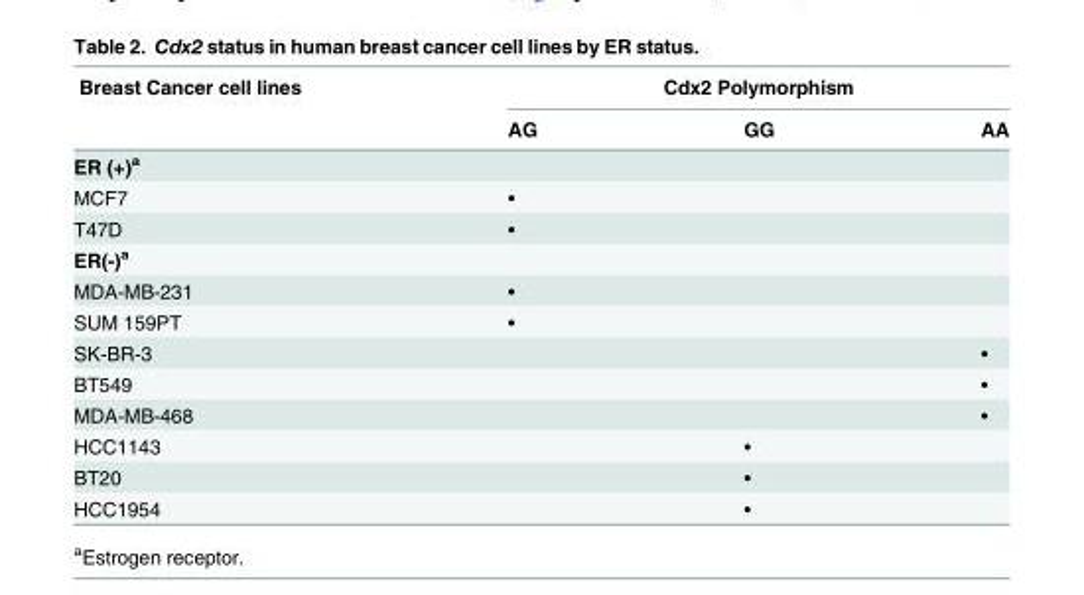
<table><thead><tr><td rowspan="2">Breast Cancer cell lines</td><td colspan="3">Cdx2 Polymorphism</td></tr><tr><td>AG</td><td>GG</td><td>AA</td></tr></thead><tbody><tr><td colspan="4">ER (+)<sup>a</sup></td></tr><tr><td>MCF7</td><td>•</td><td></td><td></td></tr><tr><td>T47D</td><td>•</td><td></td><td></td></tr><tr><td colspan="4">ER(-)<sup>a</sup></td></tr><tr><td>MDA-MB-231</td><td>•</td><td></td><td></td></tr><tr><td>SUM 159PT</td><td>•</td><td></td><td></td></tr><tr><td>SK-BR-3</td><td></td><td></td><td>•</td></tr><tr><td>BT549</td><td></td><td></td><td>•</td></tr><tr><td>MDA-MB-468</td><td></td><td></td><td>•</td></tr><tr><td>HCC1143</td><td></td><td>•</td><td></td></tr><tr><td>BT20</td><td></td><td>•</td><td></td></tr><tr><td>HCC1954</td><td></td><td>•</td><td></td></tr></tbody></table>